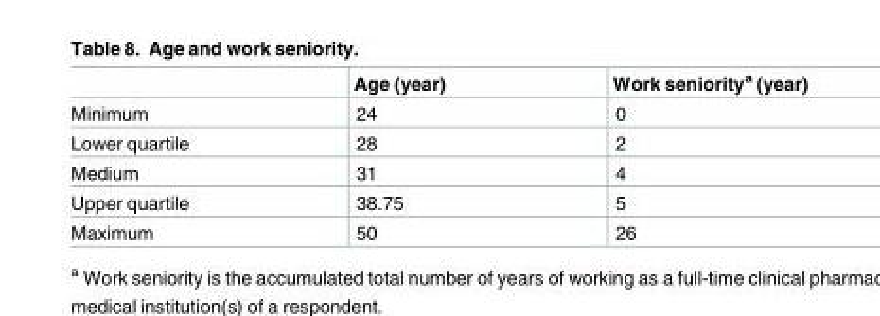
<table><thead><tr><td></td><td>Age (year)</td><td>Work seniority<sup>a</sup> (year)</td></tr></thead><tbody><tr><td>Minimum</td><td>24</td><td>0</td></tr><tr><td>Lower quartile</td><td>28</td><td>2</td></tr><tr><td>Medium</td><td>31</td><td>4</td></tr><tr><td>Upper quartile</td><td>38.75</td><td>5</td></tr><tr><td>Maximum</td><td>50</td><td>26</td></tr></tbody></table>